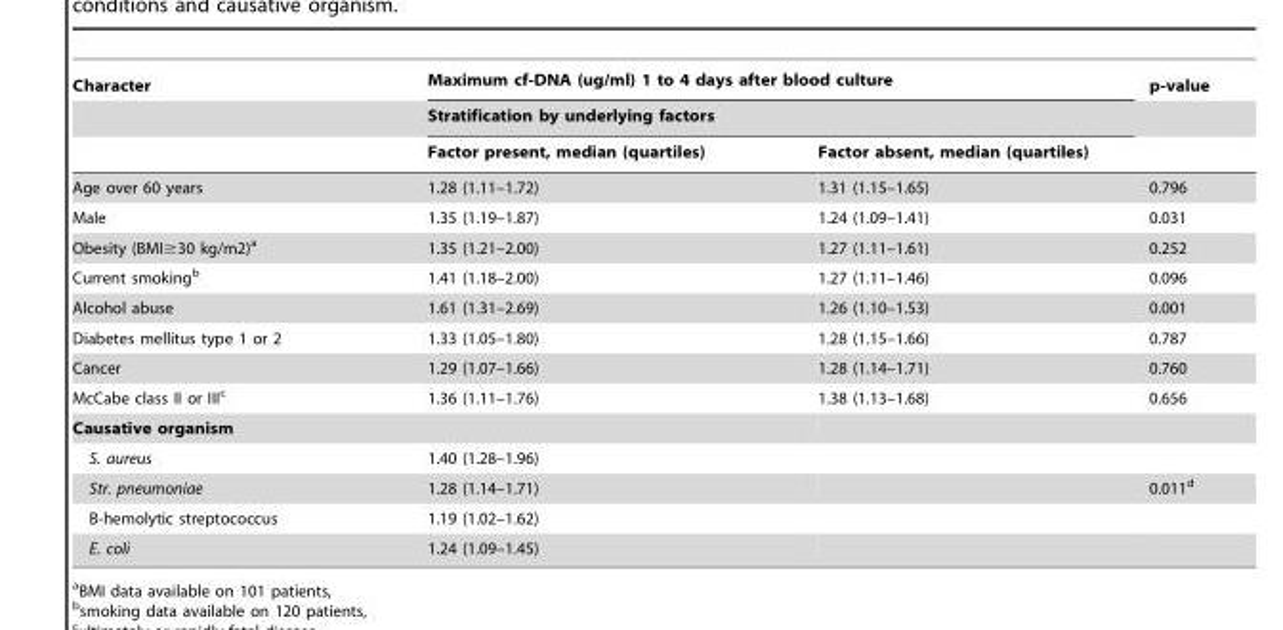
<table><thead><tr><td rowspan="3">Character</td><td rowspan="2" colspan="2">Maximum cf-DNA (ug/ml) 1 to 4 days after blood culture Stratification by underlying factors</td><td rowspan="3">p-value</td></tr><tr></tr><tr><td>Factor present, median (quartiles)</td><td>Factor absent, median (quartiles)</td></tr></thead><tbody><tr><td>Age over 60 years</td><td>1.28 (1.11–1.72)</td><td>1.31 (1.15–1.65)</td><td>0.796</td></tr><tr><td>Male</td><td>1.35 (1.19–1.87)</td><td>1.24 (1.09–1.41)</td><td>0.031</td></tr><tr><td>Obesity (BMI≥30 kg/m2)<sup>a</sup></td><td>1.35 (1.21–2.00)</td><td>1.27 (1.11–1.61)</td><td>0.252</td></tr><tr><td>Current smoking<sup>b</sup></td><td>1.41 (1.18–2.00)</td><td>1.27 (1.11–1.46)</td><td>0.096</td></tr><tr><td>Alcohol abuse</td><td>1.61 (1.31–2.69)</td><td>1.26 (1.10–1.53)</td><td>0.001</td></tr><tr><td>Diabetes mellitus type 1 or 2</td><td>1.33 (1.05–1.80)</td><td>1.28 (1.15–1.66)</td><td>0.787</td></tr><tr><td>Cancer</td><td>1.29 (1.07–1.66)</td><td>1.28 (1.14–1.71)</td><td>0.760</td></tr><tr><td>McCabe class II or III<sup>c</sup></td><td>1.36 (1.11–1.76)</td><td>1.38 (1.13–1.68)</td><td>0.656</td></tr><tr><td colspan="4">Causative organism</td></tr><tr><td>S. aureus</td><td>1.40 (1.28–1.96)</td><td></td><td></td></tr><tr><td>Str. pneumoniae</td><td>1.28 (1.14–1.71)</td><td></td><td>0.011<sup>d</sup></td></tr><tr><td>B-hemolytic streptococcus</td><td>1.19 (1.02–1.62)</td><td></td><td></td></tr><tr><td>E. coli</td><td>1.24 (1.09–1.45)</td><td></td><td></td></tr></tbody></table>